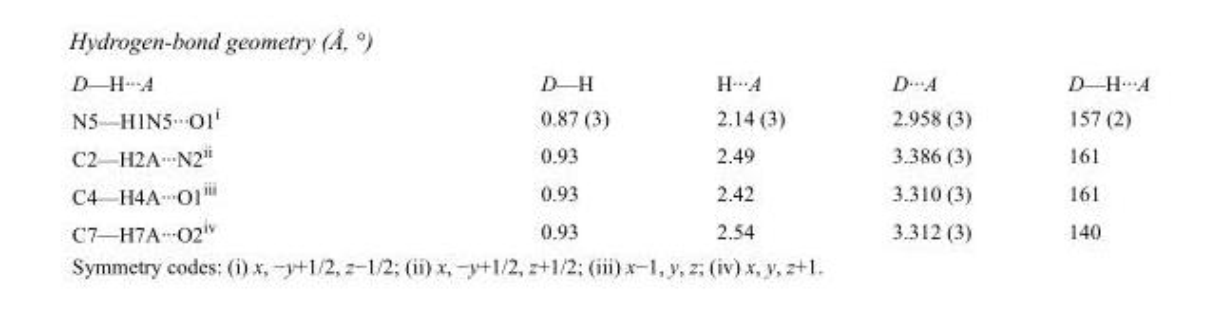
<table><tbody><tr><td>D—H···A</td><td>D—H</td><td>H···A</td><td>D···A</td><td>D—H···A</td></tr><tr><td>N5—H1N5···O1<sup>i</sup></td><td>0.87 (3)</td><td>2.14 (3)</td><td>2.958 (3)</td><td>157 (2)</td></tr><tr><td>C2—H2A···N2<sup>ii</sup></td><td>0.93</td><td>2.49</td><td>3.386 (3)</td><td>161</td></tr><tr><td>C4—H4A···O1<sup>iii</sup></td><td>0.93</td><td>2.42</td><td>3.310 (3)</td><td>161</td></tr><tr><td>C7—H7A···O2<sup>iv</sup></td><td>0.93</td><td>2.54</td><td>3.312 (3)</td><td>140</td></tr></tbody></table>